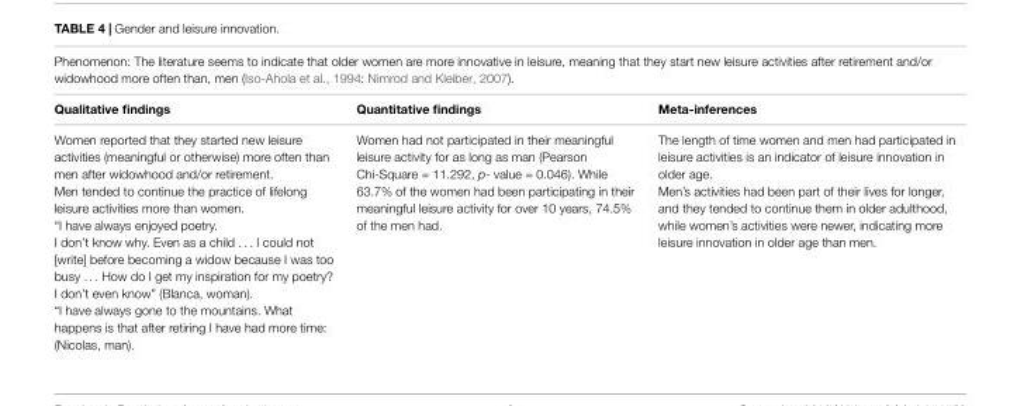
<table><thead><tr><td colspan="3">Phenomenon: The literature seems to indicate that older women are more innovative in leisure, meaning that they start new leisure activities after retirement and/or widowhood more often than, men (Iso-Ahola et al., 1994: Nimrod and Kleiber, 2007).</td></tr><tr><td>Qualitative findings</td><td>Quantitative findings</td><td>Meta-inferences</td></tr></thead><tbody><tr><td>Women reported that they started new leisure activities (meaningful or otherwise) more often than men after widowhood and/or retirement. Men tended to continue the practice of lifelong leisure activities more than women. “I have always enjoyed poetry. I don’t know why. Even as a child . . . I could not [write] before becoming a widow because I was too busy . . . How do I get my inspiration for my poetry? I don’t even know” (Blanca, woman). “I have always gone to the mountains. What happens is that after retiring I have had more time: (Nicolas, man).</td><td>Women had not participated in their meaningful leisure activity for as long as man (Pearson Chi-Square = 11.292, p- value = 0.046). While 63.7% of the women had been participating in their meaningful leisure activity for over 10 years, 74.5% of the men had.</td><td>The length of time women and men had participated in leisure activities is an indicator of leisure innovation in older age. Men’s activities had been part of their lives for longer, and they tended to continue them in older adulthood, while women’s activities were newer, indicating more leisure innovation in older age than men.</td></tr></tbody></table>